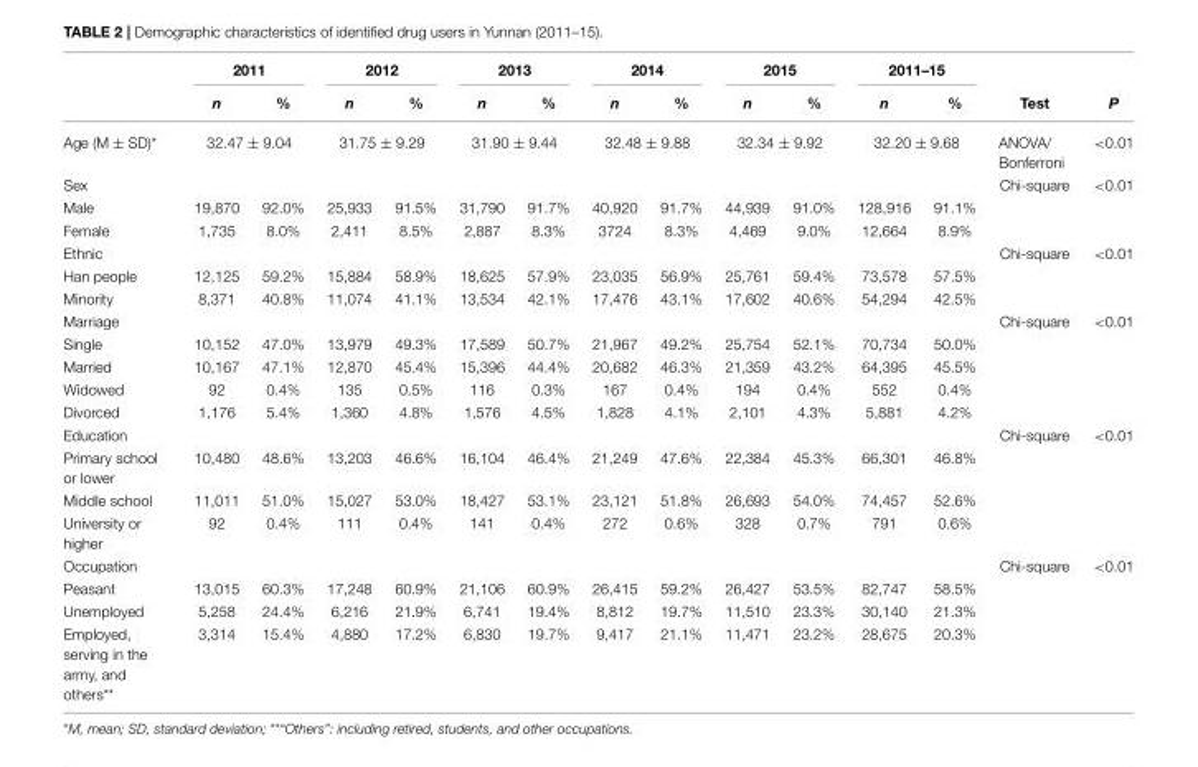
<table><thead><tr><td rowspan="2"></td><td colspan="2">2011</td><td colspan="2">2012</td><td colspan="2">2013</td><td colspan="2">2014</td><td colspan="2">2015</td><td colspan="2">2011–15</td><td rowspan="2">Test</td><td rowspan="2">P</td></tr><tr><td>n</td><td>%</td><td>n</td><td>%</td><td>n</td><td>%</td><td>n</td><td>%</td><td>n</td><td>%</td><td>n</td><td>%</td></tr></thead><tbody><tr><td>Age (M ± SD)*</td><td colspan="2">32.47 ± 9.04</td><td colspan="2">31.75 ± 9.29</td><td colspan="2">31.90 ± 9.44</td><td colspan="2">32.48 ± 9.88</td><td colspan="2">32.34 ± 9.92</td><td colspan="2">32.20 ± 9.68</td><td>ANOVA/ Bonferroni</td><td>&lt;0.01</td></tr><tr><td>Sex</td><td></td><td></td><td></td><td></td><td></td><td></td><td></td><td></td><td></td><td></td><td></td><td></td><td>Chi-square</td><td>&lt;0.01</td></tr><tr><td>Male</td><td>19,870</td><td>92.0%</td><td>25,933</td><td>91.5%</td><td>31,790</td><td>91.7%</td><td>40,920</td><td>91.7%</td><td>44,939</td><td>91.0%</td><td>128,916</td><td>91.1%</td><td></td><td></td></tr><tr><td>Female</td><td>1,735</td><td>8.0%</td><td>2,411</td><td>8.5%</td><td>2,887</td><td>8.3%</td><td>3724</td><td>8.3%</td><td>4,469</td><td>9.0%</td><td>12,664</td><td>8.9%</td><td></td><td></td></tr><tr><td>Ethnic</td><td></td><td></td><td></td><td></td><td></td><td></td><td></td><td></td><td></td><td></td><td></td><td></td><td>Chi-square</td><td>&lt;0.01</td></tr><tr><td>Han people</td><td>12,125</td><td>59.2%</td><td>15,884</td><td>58.9%</td><td>18,625</td><td>57.9%</td><td>23,035</td><td>56.9%</td><td>25,761</td><td>59.4%</td><td>73,578</td><td>57.5%</td><td></td><td></td></tr><tr><td>Minority</td><td>8,371</td><td>40.8%</td><td>11,074</td><td>41.1%</td><td>13,534</td><td>42.1%</td><td>17,476</td><td>43.1%</td><td>17,602</td><td>40.6%</td><td>54,294</td><td>42.5%</td><td></td><td></td></tr><tr><td>Marriage</td><td></td><td></td><td></td><td></td><td></td><td></td><td></td><td></td><td></td><td></td><td></td><td></td><td>Chi-square</td><td>&lt;0.01</td></tr><tr><td>Single</td><td>10,152</td><td>47.0%</td><td>13,979</td><td>49.3%</td><td>17,589</td><td>50.7%</td><td>21,967</td><td>49.2%</td><td>25,754</td><td>52.1%</td><td>70,734</td><td>50.0%</td><td></td><td></td></tr><tr><td>Married</td><td>10,167</td><td>47.1%</td><td>12,870</td><td>45.4%</td><td>15,396</td><td>44.4%</td><td>20,682</td><td>46.3%</td><td>21,359</td><td>43.2%</td><td>64,395</td><td>45.5%</td><td></td><td></td></tr><tr><td>Widowed</td><td>92</td><td>0.4%</td><td>135</td><td>0.5%</td><td>116</td><td>0.3%</td><td>167</td><td>0.4%</td><td>194</td><td>0.4%</td><td>552</td><td>0.4%</td><td></td><td></td></tr><tr><td>Divorced</td><td>1,176</td><td>5.4%</td><td>1,360</td><td>4.8%</td><td>1,576</td><td>4.5%</td><td>1,828</td><td>4.1%</td><td>2,101</td><td>4.3%</td><td>5,881</td><td>4.2%</td><td></td><td></td></tr><tr><td>Education</td><td></td><td></td><td></td><td></td><td></td><td></td><td></td><td></td><td></td><td></td><td></td><td></td><td>Chi-square</td><td>&lt;0.01</td></tr><tr><td>Primary school or lower</td><td>10,480</td><td>48.6%</td><td>13,203</td><td>46.6%</td><td>16,104</td><td>46.4%</td><td>21,249</td><td>47.6%</td><td>22,384</td><td>45.3%</td><td>66,301</td><td>46.8%</td><td></td><td></td></tr><tr><td>Middle school</td><td>11,011</td><td>51.0%</td><td>15,027</td><td>53.0%</td><td>18,427</td><td>53.1%</td><td>23,121</td><td>51.8%</td><td>26,693</td><td>54.0%</td><td>74,457</td><td>52.6%</td><td></td><td></td></tr><tr><td>University or higher</td><td>92</td><td>0.4%</td><td>111</td><td>0.4%</td><td>141</td><td>0.4%</td><td>272</td><td>0.6%</td><td>328</td><td>0.7%</td><td>791</td><td>0.6%</td><td></td><td></td></tr><tr><td>Occupation</td><td></td><td></td><td></td><td></td><td></td><td></td><td></td><td></td><td></td><td></td><td></td><td></td><td>Chi-square</td><td>&lt;0.01</td></tr><tr><td>Peasant</td><td>13,015</td><td>60.3%</td><td>17,248</td><td>60.9%</td><td>21,106</td><td>60.9%</td><td>26,415</td><td>59.2%</td><td>26,427</td><td>53.5%</td><td>82,747</td><td>58.5%</td><td></td><td></td></tr><tr><td>Unemployed</td><td>5,258</td><td>24.4%</td><td>6,216</td><td>21.9%</td><td>6,741</td><td>19.4%</td><td>8,812</td><td>19.7%</td><td>11,510</td><td>23.3%</td><td>30,140</td><td>21.3%</td><td></td><td></td></tr><tr><td>Employed, serving in the army, and others**</td><td>3,314</td><td>15.4%</td><td>4,880</td><td>17.2%</td><td>6,830</td><td>19.7%</td><td>9,417</td><td>21.1%</td><td>11,471</td><td>23.2%</td><td>28,675</td><td>20.3%</td><td></td><td></td></tr></tbody></table>